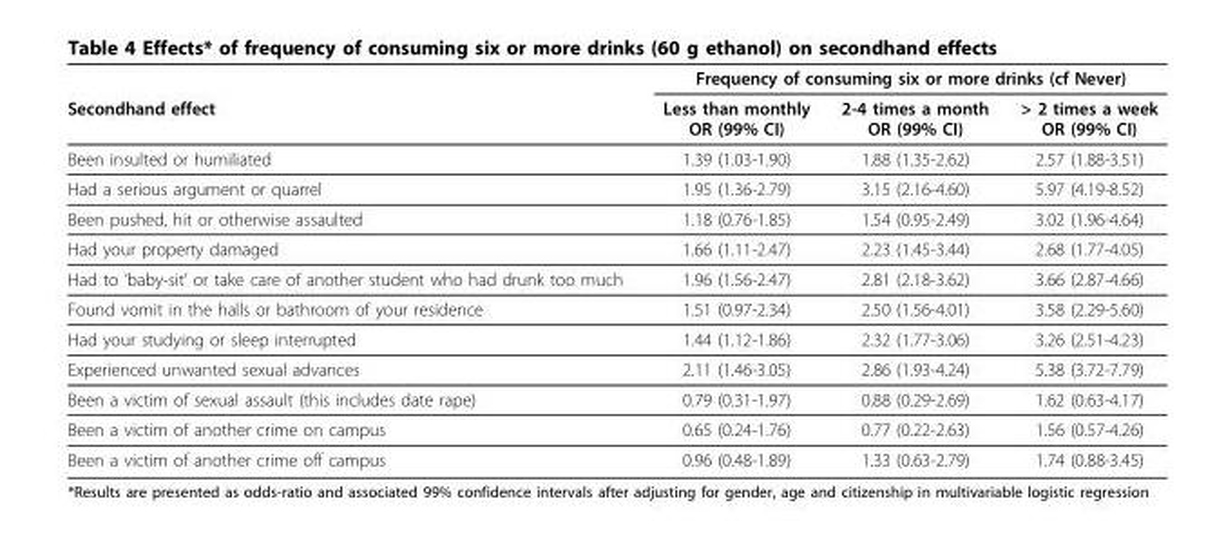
<table><thead><tr><td rowspan="2">Secondhand effect</td><td colspan="3">Frequency of consuming six or more drinks (cf Never)</td></tr><tr><td>Less than monthly OR (99% CI)</td><td>2-4 times a month OR (99% CI)</td><td>&gt; 2 times a week OR (99% CI)</td></tr></thead><tbody><tr><td>Been insulted or humiliated</td><td>1.39 (1.03-1.90)</td><td>1.88 (1.35-2.62)</td><td>2.57 (1.88-3.51)</td></tr><tr><td>Had a serious argument or quarrel</td><td>1.95 (1.36-2.79)</td><td>3.15 (2.16-4.60)</td><td>5.97 (4.19-8.52)</td></tr><tr><td>Been pushed, hit or otherwise assaulted</td><td>1.18 (0.76-1.85)</td><td>1.54 (0.95-2.49)</td><td>3.02 (1.96-4.64)</td></tr><tr><td>Had your property damaged</td><td>1.66 (1.11-2.47)</td><td>2.23 (1.45-3.44)</td><td>2.68 (1.77-4.05)</td></tr><tr><td>Had to ‘baby-sit’ or take care of another student who had drunk too much</td><td>1.96 (1.56-2.47)</td><td>2.81 (2.18-3.62)</td><td>3.66 (2.87-4.66)</td></tr><tr><td>Found vomit in the halls or bathroom of your residence</td><td>1.51 (0.97-2.34)</td><td>2.50 (1.56-4.01)</td><td>3.58 (2.29-5.60)</td></tr><tr><td>Had your studying or sleep interrupted</td><td>1.44 (1.12-1.86)</td><td>2.32 (1.77-3.06)</td><td>3.26 (2.51-4.23)</td></tr><tr><td>Experienced unwanted sexual advances</td><td>2.11 (1.46-3.05)</td><td>2.86 (1.93-4.24)</td><td>5.38 (3.72-7.79)</td></tr><tr><td>Been a victim of sexual assault (this includes date rape)</td><td>0.79 (0.31-1.97)</td><td>0.88 (0.29-2.69)</td><td>1.62 (0.63-4.17)</td></tr><tr><td>Been a victim of another crime on campus</td><td>0.65 (0.24-1.76)</td><td>0.77 (0.22-2.63)</td><td>1.56 (0.57-4.26)</td></tr><tr><td>Been a victim of another crime off campus</td><td>0.96 (0.48-1.89)</td><td>1.33 (0.63-2.79)</td><td>1.74 (0.88-3.45)</td></tr></tbody></table>